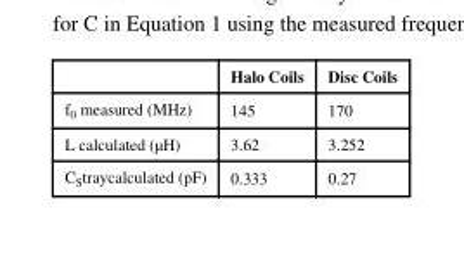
<table><thead><tr><td></td><td>Halo Coils</td><td>Disc Coils</td></tr></thead><tbody><tr><td>f<sub>0</sub> measured (MHz)</td><td>145</td><td>170</td></tr><tr><td>L calculated (μH)</td><td>3.62</td><td>3.252</td></tr><tr><td>C<sub>S</sub>traycalculated (pF)</td><td>0.333</td><td>0.27</td></tr></tbody></table>